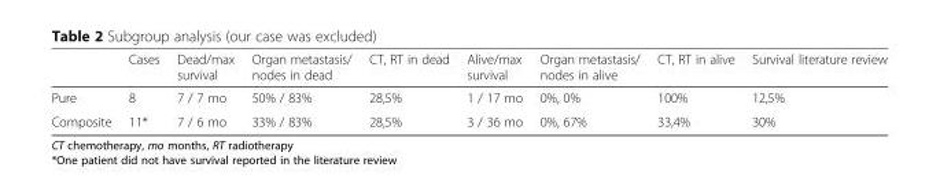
<table><thead><tr><td></td><td>Cases</td><td>Dead/max survival</td><td>Organ metastasis/ nodes in dead</td><td>CT, RT in dead</td><td>Alive/max survival</td><td>Organ metastasis/ nodes in alive</td><td>CT, RT in alive</td><td>Survival literature review</td></tr></thead><tbody><tr><td>Pure</td><td>8</td><td>7 / 7 mo</td><td>50% / 83%</td><td>28,5%</td><td>1 / 17 mo</td><td>0%, 0%</td><td>100%</td><td>12,5%</td></tr><tr><td>Composite</td><td>11*</td><td>7 / 6 mo</td><td>33% / 83%</td><td>28,5%</td><td>3 / 36 mo</td><td>0%, 67%</td><td>33,4%</td><td>30%</td></tr></tbody></table>